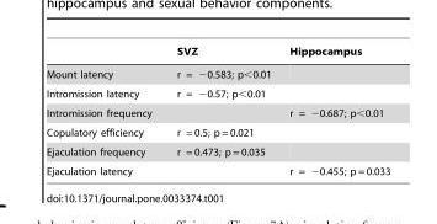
<table><thead><tr><td></td><td>SVZ</td><td>Hippocampus</td></tr></thead><tbody><tr><td>Mount latency</td><td>r = −0.583; p&lt;0.01</td><td></td></tr><tr><td>Intromission latency</td><td>r = −0.57; p&lt;0.01</td><td></td></tr><tr><td>Intromission frequency</td><td></td><td>r = −0.687; p&lt;0.01</td></tr><tr><td>Copulatory efficiency</td><td>r = 0.5; p = 0.021</td><td></td></tr><tr><td>Ejaculation frequency</td><td>r = 0.473; p = 0.035</td><td></td></tr><tr><td>Ejaculation latency</td><td></td><td>r = −0.455; p = 0.033</td></tr></tbody></table>